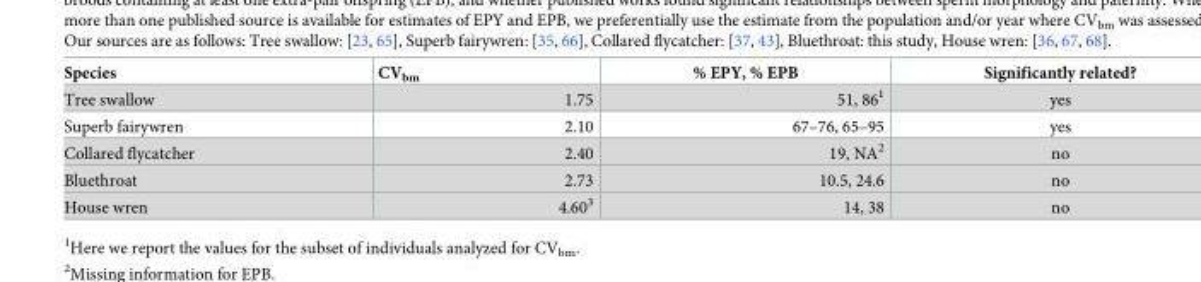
<table><thead><tr><td>Species</td><td>CV<sub>bm</sub></td><td>% EPY, % EPB</td><td>Significantly related?</td></tr></thead><tbody><tr><td>Tree swallow</td><td>1.75</td><td>51, 86<sup>1</sup></td><td>yes</td></tr><tr><td>Superb fairywren</td><td>2.10</td><td>67–76, 65–95</td><td>yes</td></tr><tr><td>Collared flycatcher</td><td>2.40</td><td>19, NA<sup>2</sup></td><td>no</td></tr><tr><td>Bluethroat</td><td>2.73</td><td>10.5, 24.6</td><td>no</td></tr><tr><td>House wren</td><td>4.60<sup>3</sup></td><td>14, 38</td><td>no</td></tr></tbody></table>